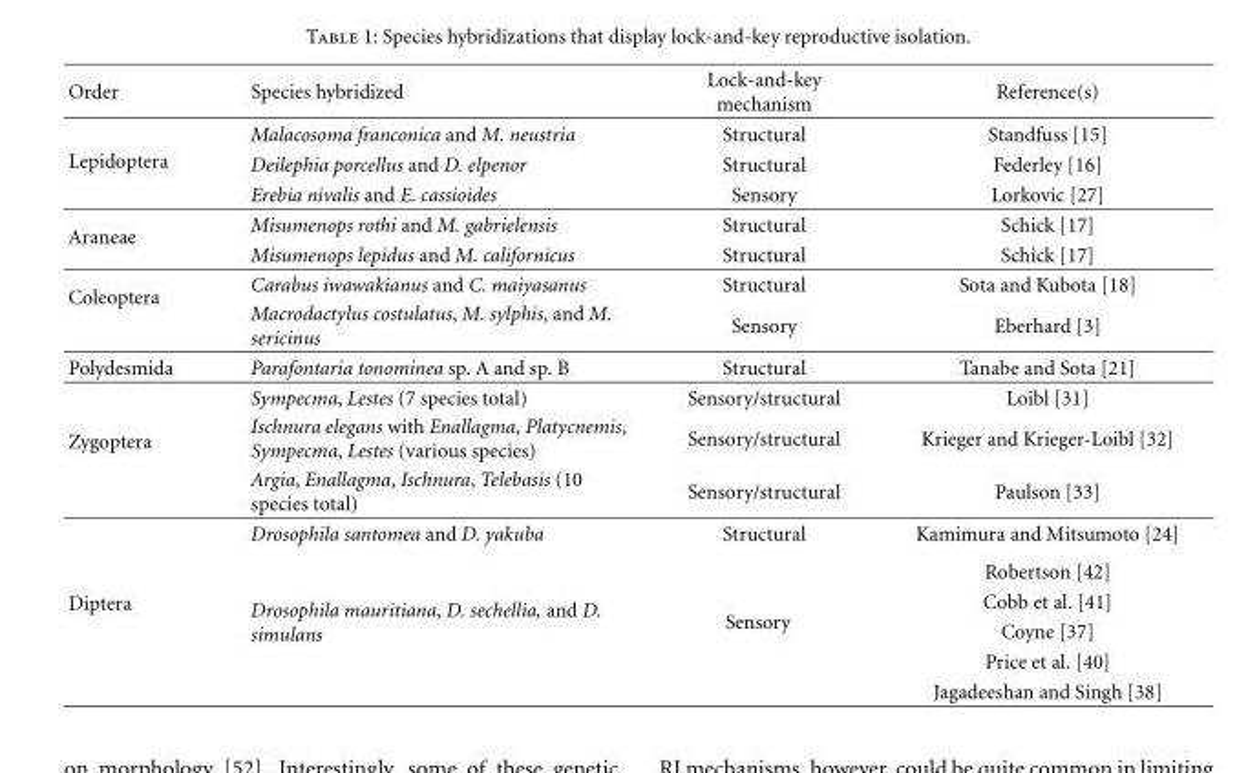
<table><thead><tr><td>Order</td><td>Species hybridized</td><td>Lock-and-key mechanism</td><td>Reference(s)</td></tr></thead><tbody><tr><td rowspan="3">Lepidoptera</td><td>Malacosoma franconica and M. neustria</td><td>Structural</td><td>Standfuss [15]</td></tr><tr><td>Deilephia porcellus and D. elpenor</td><td>Structural</td><td>Federley [16]</td></tr><tr><td>Erebia nivalis and E. cassioides</td><td>Sensory</td><td>Lorkovic [27]</td></tr><tr><td rowspan="2">Araneae</td><td>Misumenops rothi and M. gabrielensis</td><td>Structural</td><td>Schick [17]</td></tr><tr><td>Misumenops lepidus and M. californicus</td><td>Structural</td><td>Schick [17]</td></tr><tr><td rowspan="2">Coleoptera</td><td>Carabus iwawakianus and C. maiyasanus</td><td>Structural</td><td>Sota and Kubota [18]</td></tr><tr><td>Macrodactylus costulatus, M. sylphis, and M. sericinus</td><td>Sensory</td><td>Eberhard [3]</td></tr><tr><td>Polydesmida</td><td>Parafontaria tonominea sp. A and sp. B</td><td>Structural</td><td>Tanabe and Sota [21]</td></tr><tr><td rowspan="3">Zygoptera</td><td>Sympecma, Lestes (7 species total)</td><td>Sensory/structural</td><td>Loibl [31]</td></tr><tr><td>Ischnura elegans with Enallagma, Platycnemis, Sympecma, Lestes (various species)</td><td>Sensory/structural</td><td>Krieger and Krieger-Loibl [32]</td></tr><tr><td>Argia, Enallagma, Ischnura, Telebasis (10 species total)</td><td>Sensory/structural</td><td>Paulson [33]</td></tr><tr><td rowspan="6">Diptera</td><td>Drosophila santomea and D. yakuba</td><td>Structural</td><td>Kamimura and Mitsumoto [24]</td></tr><tr><td rowspan="5">Drosophila mauritiana, D. sechellia, and D. simulans</td><td rowspan="5">Sensory</td><td>Robertson [42]</td></tr><tr><td>Cobb et al. [41]</td></tr><tr><td>Coyne [37]</td></tr><tr><td>Price et al. [40]</td></tr><tr><td>Jagadeeshan and Singh [38]</td></tr></tbody></table>